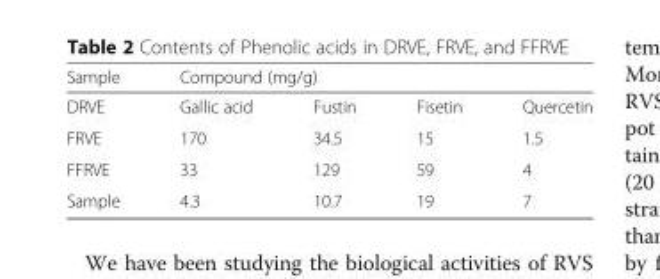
<table><thead><tr><td rowspan="2">Sample DRVE</td><td colspan="4">Compound (mg/g)</td></tr><tr><td>Gallic acid</td><td>Fustin</td><td>Fisetin</td><td>Quercetin</td></tr></thead><tbody><tr><td>FRVE</td><td>170</td><td>34.5</td><td>15</td><td>1.5</td></tr><tr><td>FFRVE</td><td>33</td><td>129</td><td>59</td><td>4</td></tr><tr><td>Sample</td><td>4.3</td><td>10.7</td><td>19</td><td>7</td></tr></tbody></table>